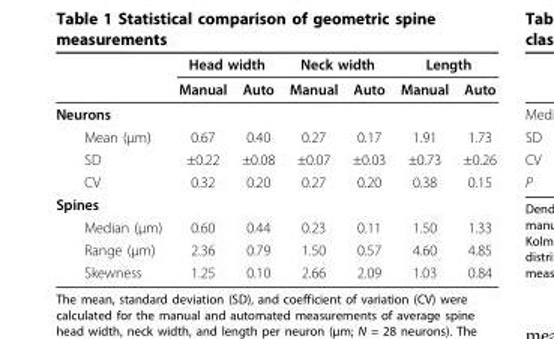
<table><thead><tr><td rowspan="2"></td><td colspan="2">Head width</td><td colspan="2">Neck width</td><td colspan="2">Length</td></tr><tr><td>Manual</td><td>Auto</td><td>Manual</td><td>Auto</td><td>Manual</td><td>Auto</td></tr></thead><tbody><tr><td colspan="7">Neurons</td></tr><tr><td>Mean (μm)</td><td>0.67</td><td>0.40</td><td>0.27</td><td>0.17</td><td>1.91</td><td>1.73</td></tr><tr><td>SD</td><td>±0.22</td><td>±0.08</td><td>±0.07</td><td>±0.03</td><td>±0.73</td><td>±0.26</td></tr><tr><td>CV</td><td>0.32</td><td>0.20</td><td>0.27</td><td>0.20</td><td>0.38</td><td>0.15</td></tr><tr><td colspan="7">Spines</td></tr><tr><td>Median (μm)</td><td>0.60</td><td>0.44</td><td>0.23</td><td>0.11</td><td>1.50</td><td>1.33</td></tr><tr><td>Range (μm)</td><td>2.36</td><td>0.79</td><td>1.50</td><td>0.57</td><td>4.60</td><td>4.85</td></tr><tr><td>Skewness</td><td>1.25</td><td>0.10</td><td>2.66</td><td>2.09</td><td>1.03</td><td>0.84</td></tr></tbody></table>